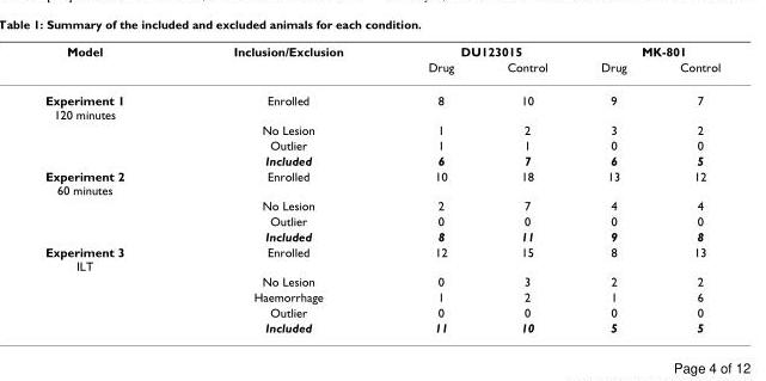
<table><thead><tr><td rowspan="2">Model</td><td rowspan="2">Inclusion/Exclusion</td><td colspan="2">DU123015</td><td colspan="2">MK-801</td></tr><tr><td>Drug</td><td>Control</td><td>Drug</td><td>Control</td></tr></thead><tbody><tr><td rowspan="4">Experiment 1 120 minutes</td><td>Enrolled</td><td>8</td><td>10</td><td>9</td><td>7</td></tr><tr><td>No Lesion</td><td>1</td><td>2</td><td>3</td><td>2</td></tr><tr><td>Outlier</td><td>1</td><td>1</td><td>0</td><td>0</td></tr><tr><td>Included</td><td>6</td><td>7</td><td>6</td><td>5</td></tr><tr><td rowspan="4">Experiment 2 60 minutes</td><td>Enrolled</td><td>10</td><td>18</td><td>13</td><td>12</td></tr><tr><td>No Lesion</td><td>2</td><td>7</td><td>4</td><td>4</td></tr><tr><td>Outlier</td><td>0</td><td>0</td><td>0</td><td>0</td></tr><tr><td>Included</td><td>8</td><td>11</td><td>9</td><td>8</td></tr><tr><td rowspan="5">Experiment 3 ILT</td><td>Enrolled</td><td>12</td><td>15</td><td>8</td><td>13</td></tr><tr><td>No Lesion</td><td>0</td><td>3</td><td>2</td><td>2</td></tr><tr><td>Haemorrhage</td><td>1</td><td>2</td><td>1</td><td>6</td></tr><tr><td>Outlier</td><td>0</td><td>0</td><td>0</td><td>0</td></tr><tr><td>Included</td><td>11</td><td>10</td><td>5</td><td>5</td></tr></tbody></table>